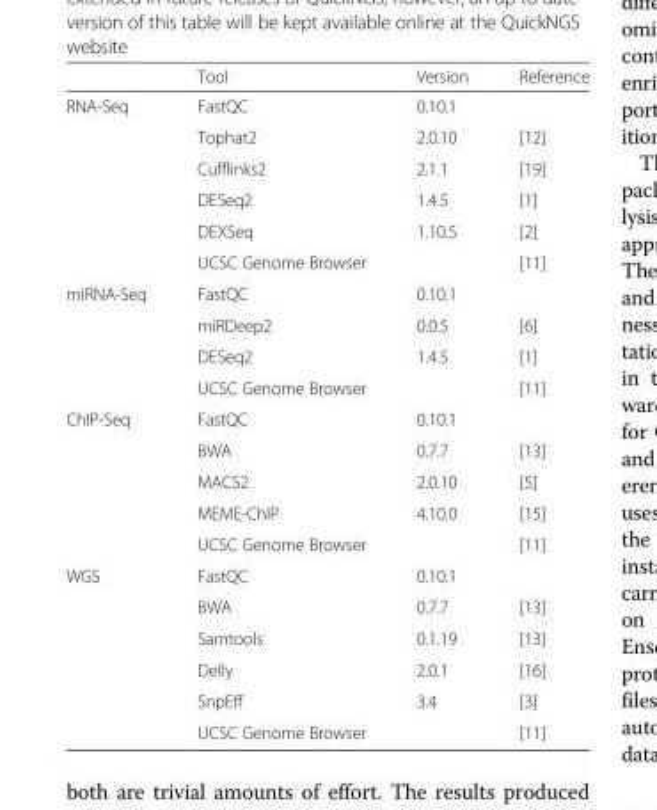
<table><thead><tr><td></td><td>Tool</td><td>Version</td><td>Reference</td></tr></thead><tbody><tr><td rowspan="6">RNA-Seq</td><td>FastQC</td><td>0.10.1</td><td></td></tr><tr><td>Tophat2</td><td>2.0.10</td><td>[12]</td></tr><tr><td>Cufflinks2</td><td>2.1.1</td><td>[19]</td></tr><tr><td>DESeq2</td><td>1.4.5</td><td>[1]</td></tr><tr><td>DEXSeq</td><td>1.10.5</td><td>[2]</td></tr><tr><td>UCSC Genome Browser</td><td></td><td>[11]</td></tr><tr><td rowspan="4">miRNA-Seq</td><td>FastQC</td><td>0.10.1</td><td></td></tr><tr><td>miRDeep2</td><td>0.0.5</td><td>[6]</td></tr><tr><td>DESeq2</td><td>1.4.5</td><td>[1]</td></tr><tr><td>UCSC Genome Browser</td><td></td><td>[11]</td></tr><tr><td rowspan="5">ChIP-Seq</td><td>FastQC</td><td>0.10.1</td><td></td></tr><tr><td>BWA</td><td>0.7.7</td><td>[13]</td></tr><tr><td>MACS2</td><td>2.0.10</td><td>[5]</td></tr><tr><td>MEME-ChIP</td><td>4.10.0</td><td>[15]</td></tr><tr><td>UCSC Genome Browser</td><td></td><td>[11]</td></tr><tr><td rowspan="6">WGS</td><td>FastQC</td><td>0.10.1</td><td></td></tr><tr><td>BWA</td><td>0.7.7</td><td>[13]</td></tr><tr><td>Samtools</td><td>0.1.19</td><td>[13]</td></tr><tr><td>Delly</td><td>2.0.1</td><td>[16]</td></tr><tr><td>SnpEff</td><td>3.4</td><td>[3]</td></tr><tr><td>UCSC Genome Browser</td><td></td><td>[11]</td></tr></tbody></table>